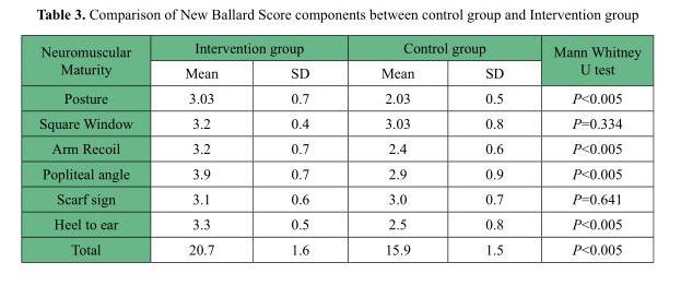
<table><thead><tr><td rowspan="2">Neuromuscular Maturity</td><td colspan="2">Intervention group</td><td colspan="2">Control group</td><td rowspan="2">Mann Whitney U test</td></tr><tr><td>Mean</td><td>SD</td><td>Mean</td><td>SD</td></tr></thead><tbody><tr><td>Posture</td><td>3.03</td><td>0.7</td><td>2.03</td><td>0.5</td><td>P&lt;0.005</td></tr><tr><td>Square Window</td><td>3.2</td><td>0.4</td><td>3.03</td><td>0.8</td><td>P=0.334</td></tr><tr><td>Arm Recoil</td><td>3.2</td><td>0.7</td><td>2.4</td><td>0.6</td><td>P&lt;0.005</td></tr><tr><td>Popliteal angle</td><td>3.9</td><td>0.7</td><td>2.9</td><td>0.9</td><td>P&lt;0.005</td></tr><tr><td>Scarf sign</td><td>3.1</td><td>0.6</td><td>3.0</td><td>0.7</td><td>P=0.641</td></tr><tr><td>Heel to ear</td><td>3.3</td><td>0.5</td><td>2.5</td><td>0.8</td><td>P&lt;0.005</td></tr><tr><td>Total</td><td>20.7</td><td>1.6</td><td>15.9</td><td>1.5</td><td>P&lt;0.005</td></tr></tbody></table>